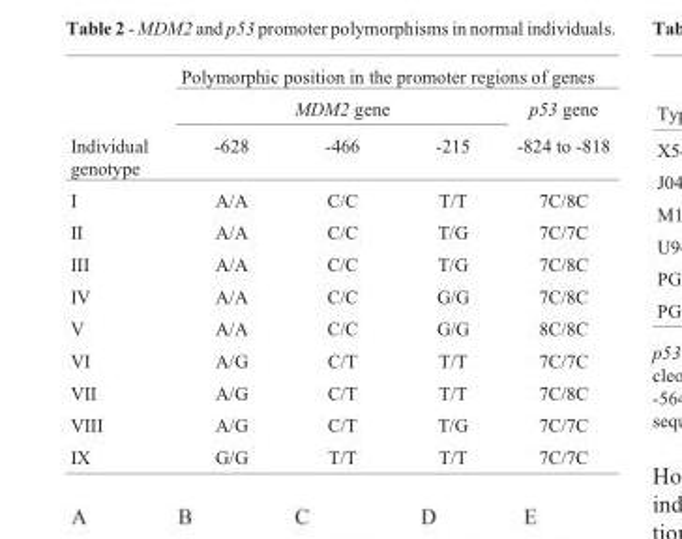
<table><thead><tr><td rowspan="3">Individual genotype</td><td colspan="4">Polymorphic position in the promoter regions of genes</td></tr><tr><td colspan="3">MDM2 gene</td><td rowspan="2">p53 gene -824 to -818</td></tr><tr><td>-628</td><td>-466</td><td>-215</td></tr></thead><tbody><tr><td>I</td><td>A/A</td><td>C/C</td><td>T/T</td><td>7C/8C</td></tr><tr><td>II</td><td>A/A</td><td>C/C</td><td>T/G</td><td>7C/7C</td></tr><tr><td>III</td><td>A/A</td><td>C/C</td><td>T/G</td><td>7C/8C</td></tr><tr><td>IV</td><td>A/A</td><td>C/C</td><td>G/G</td><td>7C/8C</td></tr><tr><td>V</td><td>A/A</td><td>C/C</td><td>G/G</td><td>8C/8C</td></tr><tr><td>VI</td><td>A/G</td><td>C/T</td><td>T/T</td><td>7C/7C</td></tr><tr><td>VII</td><td>A/G</td><td>C/T</td><td>T/T</td><td>7C/8C</td></tr><tr><td>VIII</td><td>A/G</td><td>C/T</td><td>T/G</td><td>7C/7C</td></tr><tr><td>IX</td><td>G/G</td><td>T/T</td><td>T/T</td><td>7C/7C</td></tr></tbody></table>